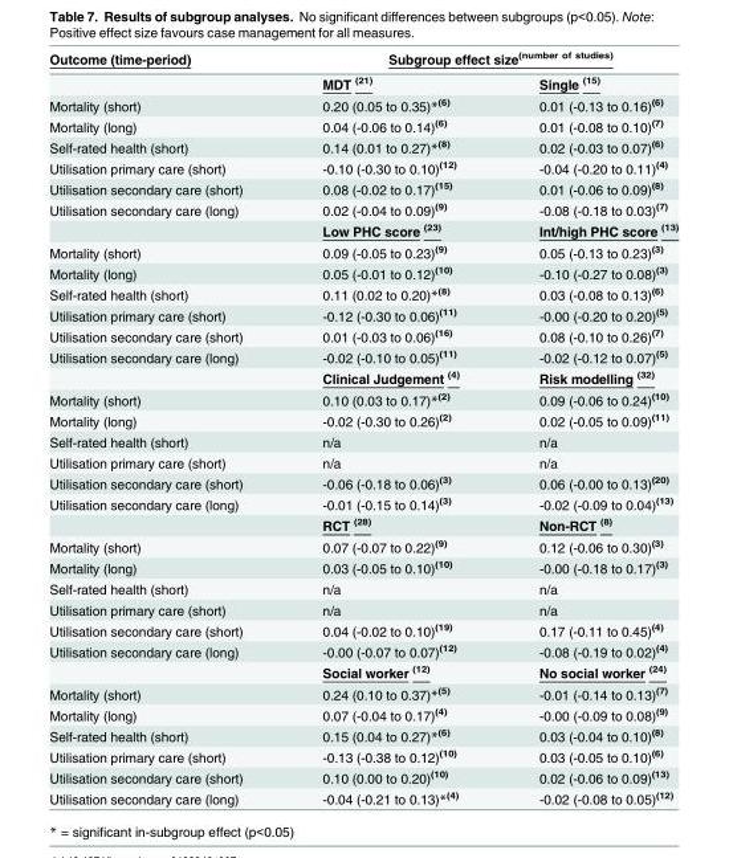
<table><thead><tr><td rowspan="2">Outcome (time-period)</td><td colspan="2">Subgroup effect size<sup>(number of studies)</sup></td></tr><tr><td>MDT <sup>(21)</sup></td><td>Single <sup>(15)</sup></td></tr></thead><tbody><tr><td>Mortality (short)</td><td>0.20 (0.05 to 0.35)*<sup>(6)</sup></td><td>0.01 (-0.13 to 0.16)<sup>(6)</sup></td></tr><tr><td>Mortality (long)</td><td>0.04 (-0.06 to 0.14)<sup>(6)</sup></td><td>0.01 (-0.08 to 0.10)<sup>(7)</sup></td></tr><tr><td>Self-rated health (short)</td><td>0.14 (0.01 to 0.27)*<sup>(8)</sup></td><td>0.02 (-0.03 to 0.07)<sup>(6)</sup></td></tr><tr><td>Utilisation primary care (short)</td><td>-0.10 (-0.30 to 0.10)<sup>(12)</sup></td><td>-0.04 (-0.20 to 0.11)<sup>(4)</sup></td></tr><tr><td>Utilisation secondary care (short)</td><td>0.08 (-0.02 to 0.17)<sup>(15)</sup></td><td>0.01 (-0.06 to 0.09)<sup>(8)</sup></td></tr><tr><td rowspan="2">Utilisation secondary care (long)</td><td>0.02 (-0.04 to 0.09)<sup>(9)</sup></td><td>-0.08 (-0.18 to 0.03)<sup>(7)</sup></td></tr><tr><td>Low PHC score <sup>(23)</sup></td><td>Int/high PHC score <sup>(13)</sup></td></tr><tr><td>Mortality (short)</td><td>0.09 (-0.05 to 0.23)<sup>(9)</sup></td><td>0.05 (-0.13 to 0.23)<sup>(3)</sup></td></tr><tr><td>Mortality (long)</td><td>0.05 (-0.01 to 0.12)<sup>(10)</sup></td><td>-0.10 (-0.27 to 0.08)<sup>(3)</sup></td></tr><tr><td>Self-rated health (short)</td><td>0.11 (0.02 to 0.20)*<sup>(8)</sup></td><td>0.03 (-0.08 to 0.13)<sup>(6)</sup></td></tr><tr><td>Utilisation primary care (short)</td><td>-0.12 (-0.30 to 0.06)<sup>(11)</sup></td><td>-0.00 (-0.20 to 0.20)<sup>(5)</sup></td></tr><tr><td>Utilisation secondary care (short)</td><td>0.01 (-0.03 to 0.06)<sup>(16)</sup></td><td>0.08 (-0.10 to 0.26)<sup>(7)</sup></td></tr><tr><td rowspan="2">Utilisation secondary care (long)</td><td>-0.02 (-0.10 to 0.05)<sup>(11)</sup></td><td>-0.02 (-0.12 to 0.07)<sup>(5)</sup></td></tr><tr><td>Clinical Judgement <sup>(4)</sup></td><td>Risk modelling <sup>(32)</sup></td></tr><tr><td>Mortality (short)</td><td>0.10 (0.03 to 0.17)*<sup>(2)</sup></td><td>0.09 (-0.06 to 0.24)<sup>(10)</sup></td></tr><tr><td>Mortality (long)</td><td>-0.02 (-0.30 to 0.26)<sup>(2)</sup></td><td>0.02 (-0.05 to 0.09)<sup>(11)</sup></td></tr><tr><td>Self-rated health (short)</td><td>n/a</td><td>n/a</td></tr><tr><td>Utilisation primary care (short)</td><td>n/a</td><td>n/a</td></tr><tr><td>Utilisation secondary care (short)</td><td>-0.06 (-0.18 to 0.06)<sup>(3)</sup></td><td>0.06 (-0.00 to 0.13)<sup>(20)</sup></td></tr><tr><td rowspan="2">Utilisation secondary care (long)</td><td>-0.01 (-0.15 to 0.14)<sup>(3)</sup></td><td>-0.02 (-0.09 to 0.04)<sup>(13)</sup></td></tr><tr><td>RCT <sup>(28)</sup></td><td>Non-RCT <sup>(8)</sup></td></tr><tr><td>Mortality (short)</td><td>0.07 (-0.07 to 0.22)<sup>(9)</sup></td><td>0.12 (-0.06 to 0.30)<sup>(3)</sup></td></tr><tr><td>Mortality (long)</td><td>0.03 (-0.05 to 0.10)<sup>(10)</sup></td><td>-0.00 (-0.18 to 0.17)<sup>(3)</sup></td></tr><tr><td>Self-rated health (short)</td><td>n/a</td><td>n/a</td></tr><tr><td>Utilisation primary care (short)</td><td>n/a</td><td>n/a</td></tr><tr><td>Utilisation secondary care (short)</td><td>0.04 (-0.02 to 0.10)<sup>(19)</sup></td><td>0.17 (-0.11 to 0.45)<sup>(4)</sup></td></tr><tr><td rowspan="2">Utilisation secondary care (long)</td><td>-0.00 (-0.07 to 0.07)<sup>(12)</sup></td><td>-0.08 (-0.19 to 0.02)<sup>(4)</sup></td></tr><tr><td>Social worker <sup>(12)</sup></td><td>No social worker <sup>(24)</sup></td></tr><tr><td>Mortality (short)</td><td>0.24 (0.10 to 0.37)*<sup>(5)</sup></td><td>-0.01 (-0.14 to 0.13)<sup>(7)</sup></td></tr><tr><td>Mortality (long)</td><td>0.07 (-0.04 to 0.17)<sup>(4)</sup></td><td>-0.00 (-0.09 to 0.08)<sup>(9)</sup></td></tr><tr><td>Self-rated health (short)</td><td>0.15 (0.04 to 0.27)*<sup>(6)</sup></td><td>0.03 (-0.04 to 0.10)<sup>(8)</sup></td></tr><tr><td>Utilisation primary care (short)</td><td>-0.13 (-0.38 to 0.12)<sup>(10)</sup></td><td>0.03 (-0.05 to 0.10)<sup>(6)</sup></td></tr><tr><td>Utilisation secondary care (short)</td><td>0.10 (0.00 to 0.20)<sup>(10)</sup></td><td>0.02 (-0.06 to 0.09)<sup>(13)</sup></td></tr><tr><td>Utilisation secondary care (long)</td><td>-0.04 (-0.21 to 0.13)*<sup>(4)</sup></td><td>-0.02 (-0.08 to 0.05)<sup>(12)</sup></td></tr></tbody></table>